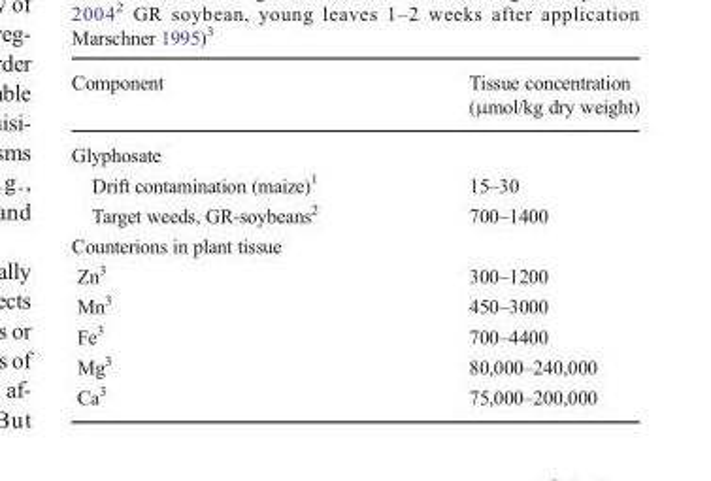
<table><thead><tr><td>Component</td><td>Tissue concentration (μmol/kg dry weight)</td></tr></thead><tbody><tr><td colspan="2">Glyphosate</td></tr><tr><td>Drift contamination (maize)<sup>1</sup></td><td>15–30</td></tr><tr><td>Target weeds, GR-soybeans<sup>2</sup></td><td>700–1400</td></tr><tr><td colspan="2">Counterions in plant tissue</td></tr><tr><td>Zn<sup>3</sup></td><td>300–1200</td></tr><tr><td>Mn<sup>3</sup></td><td>450–3000</td></tr><tr><td>Fe<sup>3</sup></td><td>700–4400</td></tr><tr><td>Mg<sup>3</sup></td><td>80,000–240,000</td></tr><tr><td>Ca<sup>3</sup></td><td>75,000–200,000</td></tr></tbody></table>